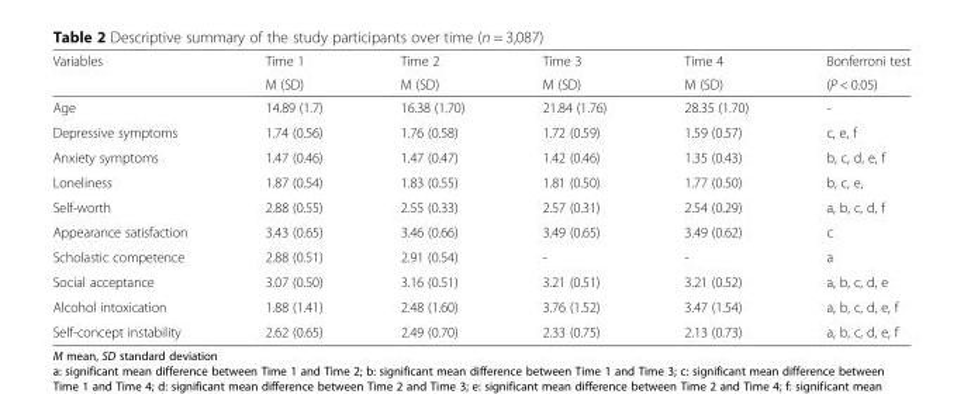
<table><thead><tr><td rowspan="2">Variables</td><td rowspan="2">Time 1 M (SD)</td><td rowspan="2">Time 2 M (SD)</td><td rowspan="2">Time 3 M (SD)</td><td rowspan="2">Time 4 M (SD)</td><td rowspan="2">Bonferroni test (P &lt; 0.05)</td></tr><tr></tr></thead><tbody><tr><td>Age</td><td>14.89 (1.7)</td><td>16.38 (1.70)</td><td>21.84 (1.76)</td><td>28.35 (1.70)</td><td>-</td></tr><tr><td>Depressive symptoms</td><td>1.74 (0.56)</td><td>1.76 (0.58)</td><td>1.72 (0.59)</td><td>1.59 (0.57)</td><td>c, e, f</td></tr><tr><td>Anxiety symptoms</td><td>1.47 (0.46)</td><td>1.47 (0.47)</td><td>1.42 (0.46)</td><td>1.35 (0.43)</td><td>b, c, d, e, f</td></tr><tr><td>Loneliness</td><td>1.87 (0.54)</td><td>1.83 (0.55)</td><td>1.81 (0.50)</td><td>1.77 (0.50)</td><td>b, c, e,</td></tr><tr><td>Self-worth</td><td>2.88 (0.55)</td><td>2.55 (0.33)</td><td>2.57 (0.31)</td><td>2.54 (0.29)</td><td>a, b, c, d, f</td></tr><tr><td>Appearance satisfaction</td><td>3.43 (0.65)</td><td>3.46 (0.66)</td><td>3.49 (0.65)</td><td>3.49 (0.62)</td><td>c</td></tr><tr><td>Scholastic competence</td><td>2.88 (0.51)</td><td>2.91 (0.54)</td><td>-</td><td>-</td><td>a</td></tr><tr><td>Social acceptance</td><td>3.07 (0.50)</td><td>3.16 (0.51)</td><td>3.21 (0.51)</td><td>3.21 (0.52)</td><td>a, b, c, d, e</td></tr><tr><td>Alcohol intoxication</td><td>1.88 (1.41)</td><td>2.48 (1.60)</td><td>3.76 (1.52)</td><td>3.47 (1.54)</td><td>a, b, c, d, e, f</td></tr><tr><td>Self-concept instability</td><td>2.62 (0.65)</td><td>2.49 (0.70)</td><td>2.33 (0.75)</td><td>2.13 (0.73)</td><td>a, b, c, d, e, f</td></tr></tbody></table>